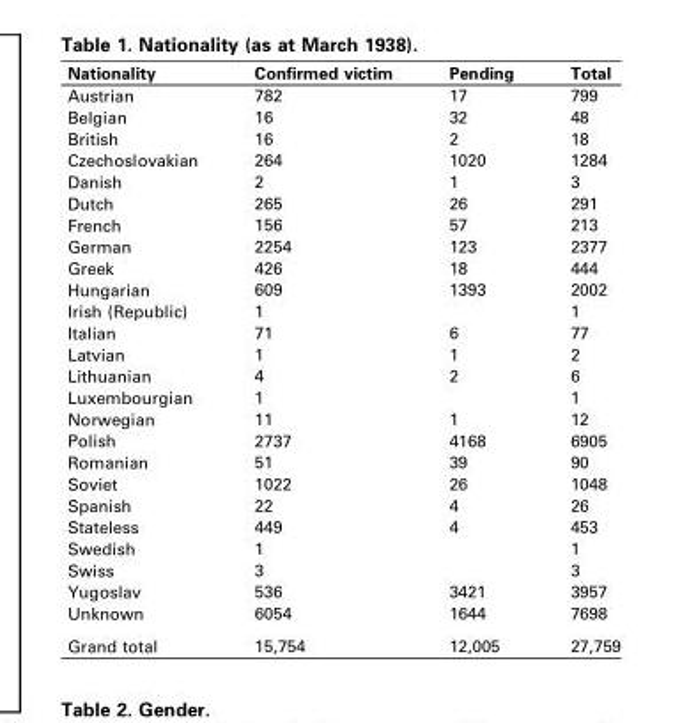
<table><thead><tr><td>Nationality</td><td>Confirmed victim</td><td>Pending</td><td>Total</td></tr></thead><tbody><tr><td>Austrian</td><td>782</td><td>17</td><td>799</td></tr><tr><td>Belgian</td><td>16</td><td>32</td><td>48</td></tr><tr><td>British</td><td>16</td><td>2</td><td>18</td></tr><tr><td>Czechoslovakian</td><td>264</td><td>1020</td><td>1284</td></tr><tr><td>Danish</td><td>2</td><td>1</td><td>3</td></tr><tr><td>Dutch</td><td>265</td><td>26</td><td>291</td></tr><tr><td>French</td><td>156</td><td>57</td><td>213</td></tr><tr><td>German</td><td>2254</td><td>123</td><td>2377</td></tr><tr><td>Greek</td><td>426</td><td>18</td><td>444</td></tr><tr><td>Hungarian</td><td>609</td><td>1393</td><td>2002</td></tr><tr><td>Irish (Republic)</td><td>1</td><td></td><td>1</td></tr><tr><td>Italian</td><td>71</td><td>6</td><td>77</td></tr><tr><td>Latvian</td><td>1</td><td>1</td><td>2</td></tr><tr><td>Lithuanian</td><td>4</td><td>2</td><td>6</td></tr><tr><td>Luxembourgian</td><td>1</td><td></td><td>1</td></tr><tr><td>Norwegian</td><td>11</td><td>1</td><td>12</td></tr><tr><td>Polish</td><td>2737</td><td>4168</td><td>6905</td></tr><tr><td>Romanian</td><td>51</td><td>39</td><td>90</td></tr><tr><td>Soviet</td><td>1022</td><td>26</td><td>1048</td></tr><tr><td>Spanish</td><td>22</td><td>4</td><td>26</td></tr><tr><td>Stateless</td><td>449</td><td>4</td><td>453</td></tr><tr><td>Swedish</td><td>1</td><td></td><td>1</td></tr><tr><td>Swiss</td><td>3</td><td></td><td>3</td></tr><tr><td>Yugoslav</td><td>536</td><td>3421</td><td>3957</td></tr><tr><td>Unknown</td><td>6054</td><td>1644</td><td>7698</td></tr><tr><td>Grand total</td><td>15,754</td><td>12,005</td><td>27,759</td></tr></tbody></table>